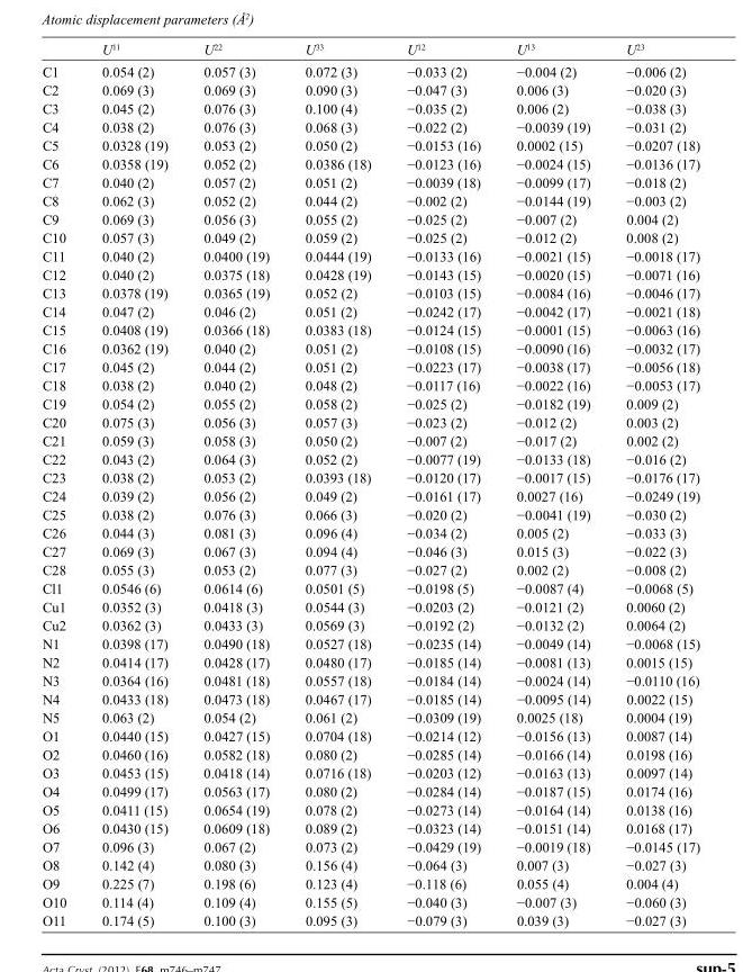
<table><thead><tr><td></td><td>U<sup>11</sup></td><td>U<sup>22</sup></td><td>U<sup>33</sup></td><td>U<sup>12</sup></td><td>U<sup>13</sup></td><td>U<sup>23</sup></td></tr></thead><tbody><tr><td>C1</td><td>0.054 (2)</td><td>0.057 (3)</td><td>0.072 (3)</td><td>−0.033 (2)</td><td>−0.004 (2)</td><td>−0.006 (2)</td></tr><tr><td>C2</td><td>0.069 (3)</td><td>0.069 (3)</td><td>0.090 (3)</td><td>−0.047 (3)</td><td>0.006 (3)</td><td>−0.020 (3)</td></tr><tr><td>C3</td><td>0.045 (2)</td><td>0.076 (3)</td><td>0.100 (4)</td><td>−0.035 (2)</td><td>0.006 (2)</td><td>−0.038 (3)</td></tr><tr><td>C4</td><td>0.038 (2)</td><td>0.076 (3)</td><td>0.068 (3)</td><td>−0.022 (2)</td><td>−0.0039 (19)</td><td>−0.031 (2)</td></tr><tr><td>C5</td><td>0.0328 (19)</td><td>0.053 (2)</td><td>0.050 (2)</td><td>−0.0153 (16)</td><td>0.0002 (15)</td><td>−0.0207 (18)</td></tr><tr><td>C6</td><td>0.0358 (19)</td><td>0.052 (2)</td><td>0.0386 (18)</td><td>−0.0123 (16)</td><td>−0.0024 (15)</td><td>−0.0136 (17)</td></tr><tr><td>C7</td><td>0.040 (2)</td><td>0.057 (2)</td><td>0.051 (2)</td><td>−0.0039 (18)</td><td>−0.0099 (17)</td><td>−0.018 (2)</td></tr><tr><td>C8</td><td>0.062 (3)</td><td>0.052 (2)</td><td>0.044 (2)</td><td>−0.002 (2)</td><td>−0.0144 (19)</td><td>−0.003 (2)</td></tr><tr><td>C9</td><td>0.069 (3)</td><td>0.056 (3)</td><td>0.055 (2)</td><td>−0.025 (2)</td><td>−0.007 (2)</td><td>0.004 (2)</td></tr><tr><td>C10</td><td>0.057 (3)</td><td>0.049 (2)</td><td>0.059 (2)</td><td>−0.025 (2)</td><td>−0.012 (2)</td><td>0.008 (2)</td></tr><tr><td>C11</td><td>0.040 (2)</td><td>0.0400 (19)</td><td>0.0444 (19)</td><td>−0.0133 (16)</td><td>−0.0021 (15)</td><td>−0.0018 (17)</td></tr><tr><td>C12</td><td>0.040 (2)</td><td>0.0375 (18)</td><td>0.0428 (19)</td><td>−0.0143 (15)</td><td>−0.0020 (15)</td><td>−0.0071 (16)</td></tr><tr><td>C13</td><td>0.0378 (19)</td><td>0.0365 (19)</td><td>0.052 (2)</td><td>−0.0103 (15)</td><td>−0.0084 (16)</td><td>−0.0046 (17)</td></tr><tr><td>C14</td><td>0.047 (2)</td><td>0.046 (2)</td><td>0.051 (2)</td><td>−0.0242 (17)</td><td>−0.0042 (17)</td><td>−0.0021 (18)</td></tr><tr><td>C15</td><td>0.0408 (19)</td><td>0.0366 (18)</td><td>0.0383 (18)</td><td>−0.0124 (15)</td><td>−0.0001 (15)</td><td>−0.0063 (16)</td></tr><tr><td>C16</td><td>0.0362 (19)</td><td>0.040 (2)</td><td>0.051 (2)</td><td>−0.0108 (15)</td><td>−0.0090 (16)</td><td>−0.0032 (17)</td></tr><tr><td>C17</td><td>0.045 (2)</td><td>0.044 (2)</td><td>0.051 (2)</td><td>−0.0223 (17)</td><td>−0.0038 (17)</td><td>−0.0056 (18)</td></tr><tr><td>C18</td><td>0.038 (2)</td><td>0.040 (2)</td><td>0.048 (2)</td><td>−0.0117 (16)</td><td>−0.0022 (16)</td><td>−0.0053 (17)</td></tr><tr><td>C19</td><td>0.054 (2)</td><td>0.055 (2)</td><td>0.058 (2)</td><td>−0.025 (2)</td><td>−0.0182 (19)</td><td>0.009 (2)</td></tr><tr><td>C20</td><td>0.075 (3)</td><td>0.056 (3)</td><td>0.057 (3)</td><td>−0.023 (2)</td><td>−0.012 (2)</td><td>0.003 (2)</td></tr><tr><td>C21</td><td>0.059 (3)</td><td>0.058 (3)</td><td>0.050 (2)</td><td>−0.007 (2)</td><td>−0.017 (2)</td><td>0.002 (2)</td></tr><tr><td>C22</td><td>0.043 (2)</td><td>0.064 (3)</td><td>0.052 (2)</td><td>−0.0077 (19)</td><td>−0.0133 (18)</td><td>−0.016 (2)</td></tr><tr><td>C23</td><td>0.038 (2)</td><td>0.053 (2)</td><td>0.0393 (18)</td><td>−0.0120 (17)</td><td>−0.0017 (15)</td><td>−0.0176 (17)</td></tr><tr><td>C24</td><td>0.039 (2)</td><td>0.056 (2)</td><td>0.049 (2)</td><td>−0.0161 (17)</td><td>0.0027 (16)</td><td>−0.0249 (19)</td></tr><tr><td>C25</td><td>0.038 (2)</td><td>0.076 (3)</td><td>0.066 (3)</td><td>−0.020 (2)</td><td>−0.0041 (19)</td><td>−0.030 (2)</td></tr><tr><td>C26</td><td>0.044 (3)</td><td>0.081 (3)</td><td>0.096 (4)</td><td>−0.034 (2)</td><td>0.005 (2)</td><td>−0.033 (3)</td></tr><tr><td>C27</td><td>0.069 (3)</td><td>0.067 (3)</td><td>0.094 (4)</td><td>−0.046 (3)</td><td>0.015 (3)</td><td>−0.022 (3)</td></tr><tr><td>C28</td><td>0.055 (3)</td><td>0.053 (2)</td><td>0.077 (3)</td><td>−0.027 (2)</td><td>0.002 (2)</td><td>−0.008 (2)</td></tr><tr><td>Cl1</td><td>0.0546 (6)</td><td>0.0614 (6)</td><td>0.0501 (5)</td><td>−0.0198 (5)</td><td>−0.0087 (4)</td><td>−0.0068 (5)</td></tr><tr><td>Cu1</td><td>0.0352 (3)</td><td>0.0418 (3)</td><td>0.0544 (3)</td><td>−0.0203 (2)</td><td>−0.0121 (2)</td><td>0.0060 (2)</td></tr><tr><td>Cu2</td><td>0.0362 (3)</td><td>0.0433 (3)</td><td>0.0569 (3)</td><td>−0.0192 (2)</td><td>−0.0132 (2)</td><td>0.0064 (2)</td></tr><tr><td>N1</td><td>0.0398 (17)</td><td>0.0490 (18)</td><td>0.0527 (18)</td><td>−0.0235 (14)</td><td>−0.0049 (14)</td><td>−0.0068 (15)</td></tr><tr><td>N2</td><td>0.0414 (17)</td><td>0.0428 (17)</td><td>0.0480 (17)</td><td>−0.0185 (14)</td><td>−0.0081 (13)</td><td>0.0015 (15)</td></tr><tr><td>N3</td><td>0.0364 (16)</td><td>0.0481 (18)</td><td>0.0557 (18)</td><td>−0.0184 (14)</td><td>−0.0024 (14)</td><td>−0.0110 (16)</td></tr><tr><td>N4</td><td>0.0433 (18)</td><td>0.0473 (18)</td><td>0.0467 (17)</td><td>−0.0185 (14)</td><td>−0.0095 (14)</td><td>0.0022 (15)</td></tr><tr><td>N5</td><td>0.063 (2)</td><td>0.054 (2)</td><td>0.061 (2)</td><td>−0.0309 (19)</td><td>0.0025 (18)</td><td>0.0004 (19)</td></tr><tr><td>O1</td><td>0.0440 (15)</td><td>0.0427 (15)</td><td>0.0704 (18)</td><td>−0.0214 (12)</td><td>−0.0156 (13)</td><td>0.0087 (14)</td></tr><tr><td>O2</td><td>0.0460 (16)</td><td>0.0582 (18)</td><td>0.080 (2)</td><td>−0.0285 (14)</td><td>−0.0166 (14)</td><td>0.0198 (16)</td></tr><tr><td>O3</td><td>0.0453 (15)</td><td>0.0418 (14)</td><td>0.0716 (18)</td><td>−0.0203 (12)</td><td>−0.0163 (13)</td><td>0.0097 (14)</td></tr><tr><td>O4</td><td>0.0499 (17)</td><td>0.0563 (17)</td><td>0.080 (2)</td><td>−0.0284 (14)</td><td>−0.0187 (15)</td><td>0.0174 (16)</td></tr><tr><td>O5</td><td>0.0411 (15)</td><td>0.0654 (19)</td><td>0.078 (2)</td><td>−0.0273 (14)</td><td>−0.0164 (14)</td><td>0.0138 (16)</td></tr><tr><td>O6</td><td>0.0430 (15)</td><td>0.0609 (18)</td><td>0.089 (2)</td><td>−0.0323 (14)</td><td>−0.0151 (14)</td><td>0.0168 (17)</td></tr><tr><td>O7</td><td>0.096 (3)</td><td>0.067 (2)</td><td>0.073 (2)</td><td>−0.0429 (19)</td><td>−0.0019 (18)</td><td>−0.0145 (17)</td></tr><tr><td>O8</td><td>0.142 (4)</td><td>0.080 (3)</td><td>0.156 (4)</td><td>−0.064 (3)</td><td>0.007 (3)</td><td>−0.027 (3)</td></tr><tr><td>O9</td><td>0.225 (7)</td><td>0.198 (6)</td><td>0.123 (4)</td><td>−0.118 (6)</td><td>0.055 (4)</td><td>0.004 (4)</td></tr><tr><td>O10</td><td>0.114 (4)</td><td>0.109 (4)</td><td>0.155 (5)</td><td>−0.040 (3)</td><td>−0.007 (3)</td><td>−0.060 (3)</td></tr><tr><td>O11</td><td>0.174 (5)</td><td>0.100 (3)</td><td>0.095 (3)</td><td>−0.079 (3)</td><td>0.039 (3)</td><td>−0.027 (3)</td></tr></tbody></table>